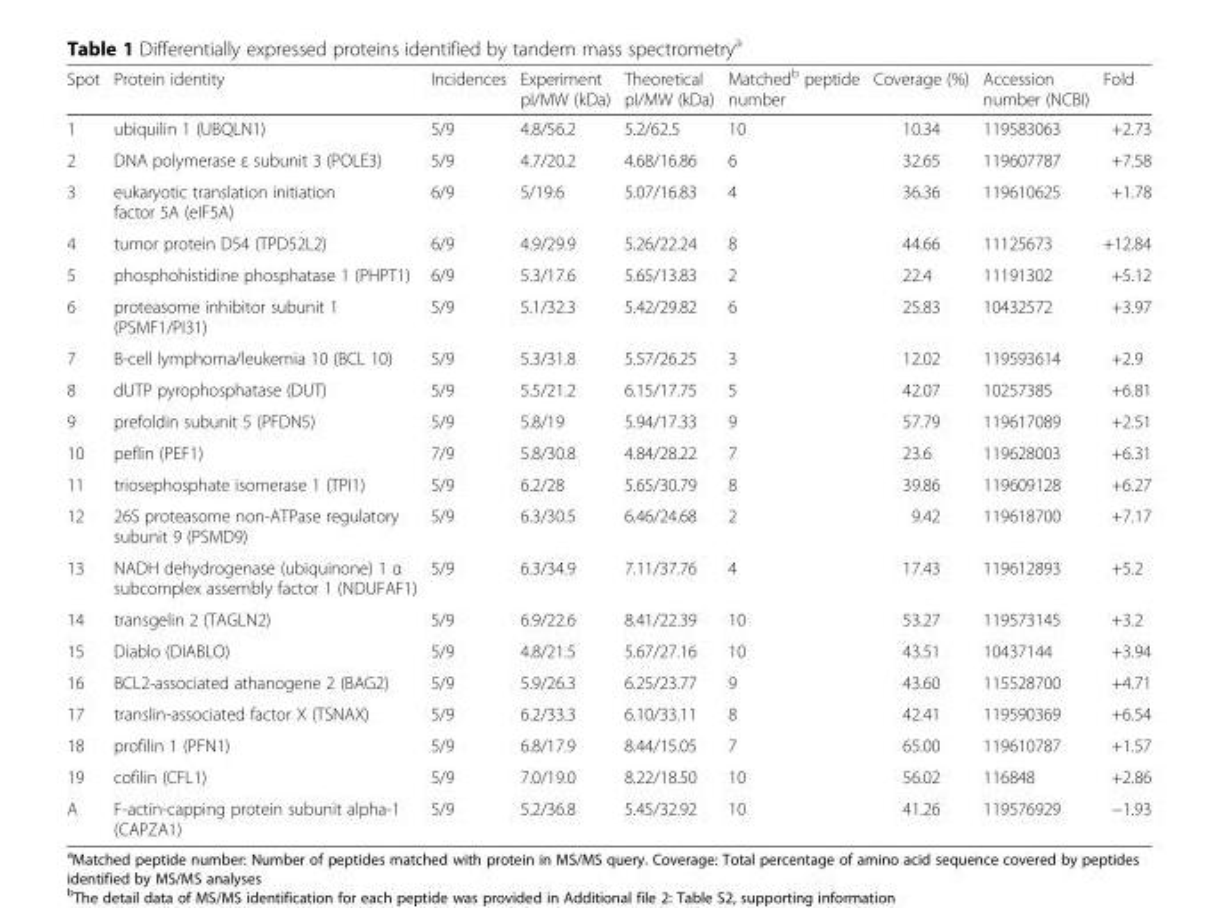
<table><thead><tr><td>Spot</td><td>Protein identity</td><td>Incidences</td><td>Experiment pI/MW (kDa)</td><td>Theoretical pI/MW (kDa)</td><td>Matched<sup>b</sup> peptide number</td><td>Coverage (%)</td><td>Accession number (NCBI)</td><td>Fold</td></tr></thead><tbody><tr><td>1</td><td>ubiquilin 1 (UBQLN1)</td><td>5/9</td><td>4.8/56.2</td><td>5.2/62.5</td><td>10</td><td>10.34</td><td>119583063</td><td>+2.73</td></tr><tr><td>2</td><td>DNA polymerase ε subunit 3 (POLE3)</td><td>5/9</td><td>4.7/20.2</td><td>4.68/16.86</td><td>6</td><td>32.65</td><td>119607787</td><td>+7.58</td></tr><tr><td>3</td><td>eukaryotic translation initiation factor 5A (eIF5A)</td><td>6/9</td><td>5/19.6</td><td>5.07/16.83</td><td>4</td><td>36.36</td><td>119610625</td><td>+1.78</td></tr><tr><td>4</td><td>tumor protein D54 (TPD52L2)</td><td>6/9</td><td>4.9/29.9</td><td>5.26/22.24</td><td>8</td><td>44.66</td><td>11125673</td><td>+12.84</td></tr><tr><td>5</td><td>phosphohistidine phosphatase 1 (PHPT1)</td><td>6/9</td><td>5.3/17.6</td><td>5.65/13.83</td><td>2</td><td>22.4</td><td>11191302</td><td>+5.12</td></tr><tr><td>6</td><td>proteasome inhibitor subunit 1 (PSMF1/PI31)</td><td>5/9</td><td>5.1/32.3</td><td>5.42/29.82</td><td>6</td><td>25.83</td><td>10432572</td><td>+3.97</td></tr><tr><td>7</td><td>B-cell lymphoma/leukemia 10 (BCL 10)</td><td>5/9</td><td>5.3/31.8</td><td>5.57/26.25</td><td>3</td><td>12.02</td><td>119593614</td><td>+2.9</td></tr><tr><td>8</td><td>dUTP pyrophosphatase (DUT)</td><td>5/9</td><td>5.5/21.2</td><td>6.15/17.75</td><td>5</td><td>42.07</td><td>10257385</td><td>+6.81</td></tr><tr><td>9</td><td>prefoldin subunit 5 (PFDN5)</td><td>5/9</td><td>5.8/19</td><td>5.94/17.33</td><td>9</td><td>57.79</td><td>119617089</td><td>+2.51</td></tr><tr><td>10</td><td>peflin (PEF1)</td><td>7/9</td><td>5.8/30.8</td><td>4.84/28.22</td><td>7</td><td>23.6</td><td>119628003</td><td>+6.31</td></tr><tr><td>11</td><td>triosephosphate isomerase 1 (TPI1)</td><td>5/9</td><td>6.2/28</td><td>5.65/30.79</td><td>8</td><td>39.86</td><td>119609128</td><td>+6.27</td></tr><tr><td>12</td><td>26S proteasome non-ATPase regulatory subunit 9 (PSMD9)</td><td>5/9</td><td>6.3/30.5</td><td>6.46/24.68</td><td>2</td><td>9.42</td><td>119618700</td><td>+7.17</td></tr><tr><td>13</td><td>NADH dehydrogenase (ubiquinone) 1 α subcomplex assembly factor 1 (NDUFAF1)</td><td>5/9</td><td>6.3/34.9</td><td>7.11/37.76</td><td>4</td><td>17.43</td><td>119612893</td><td>+5.2</td></tr><tr><td>14</td><td>transgelin 2 (TAGLN2)</td><td>5/9</td><td>6.9/22.6</td><td>8.41/22.39</td><td>10</td><td>53.27</td><td>119573145</td><td>+3.2</td></tr><tr><td>15</td><td>Diablo (DIABLO)</td><td>5/9</td><td>4.8/21.5</td><td>5.67/27.16</td><td>10</td><td>43.51</td><td>10437144</td><td>+3.94</td></tr><tr><td>16</td><td>BCL2-associated athanogene 2 (BAG2)</td><td>5/9</td><td>5.9/26.3</td><td>6.25/23.77</td><td>9</td><td>43.60</td><td>115528700</td><td>+4.71</td></tr><tr><td>17</td><td>translin-associated factor X (TSNAX)</td><td>5/9</td><td>6.2/33.3</td><td>6.10/33.11</td><td>8</td><td>42.41</td><td>119590369</td><td>+6.54</td></tr><tr><td>18</td><td>profilin 1 (PFN1)</td><td>5/9</td><td>6.8/17.9</td><td>8.44/15.05</td><td>7</td><td>65.00</td><td>119610787</td><td>+1.57</td></tr><tr><td>19</td><td>cofilin (CFL1)</td><td>5/9</td><td>7.0/19.0</td><td>8.22/18.50</td><td>10</td><td>56.02</td><td>116848</td><td>+2.86</td></tr><tr><td>A</td><td>F-actin-capping protein subunit alpha-1 (CAPZA1)</td><td>5/9</td><td>5.2/36.8</td><td>5.45/32.92</td><td>10</td><td>41.26</td><td>119576929</td><td>−1.93</td></tr></tbody></table>